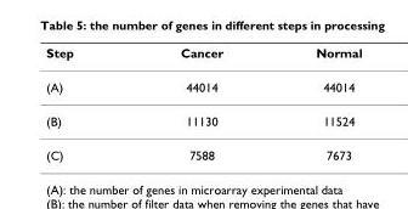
<table><thead><tr><td>Step</td><td>Cancer</td><td>Normal</td></tr></thead><tbody><tr><td>(A)</td><td>44014</td><td>44014</td></tr><tr><td>(B)</td><td>11130</td><td>11524</td></tr><tr><td>(C)</td><td>7588</td><td>7673</td></tr></tbody></table>